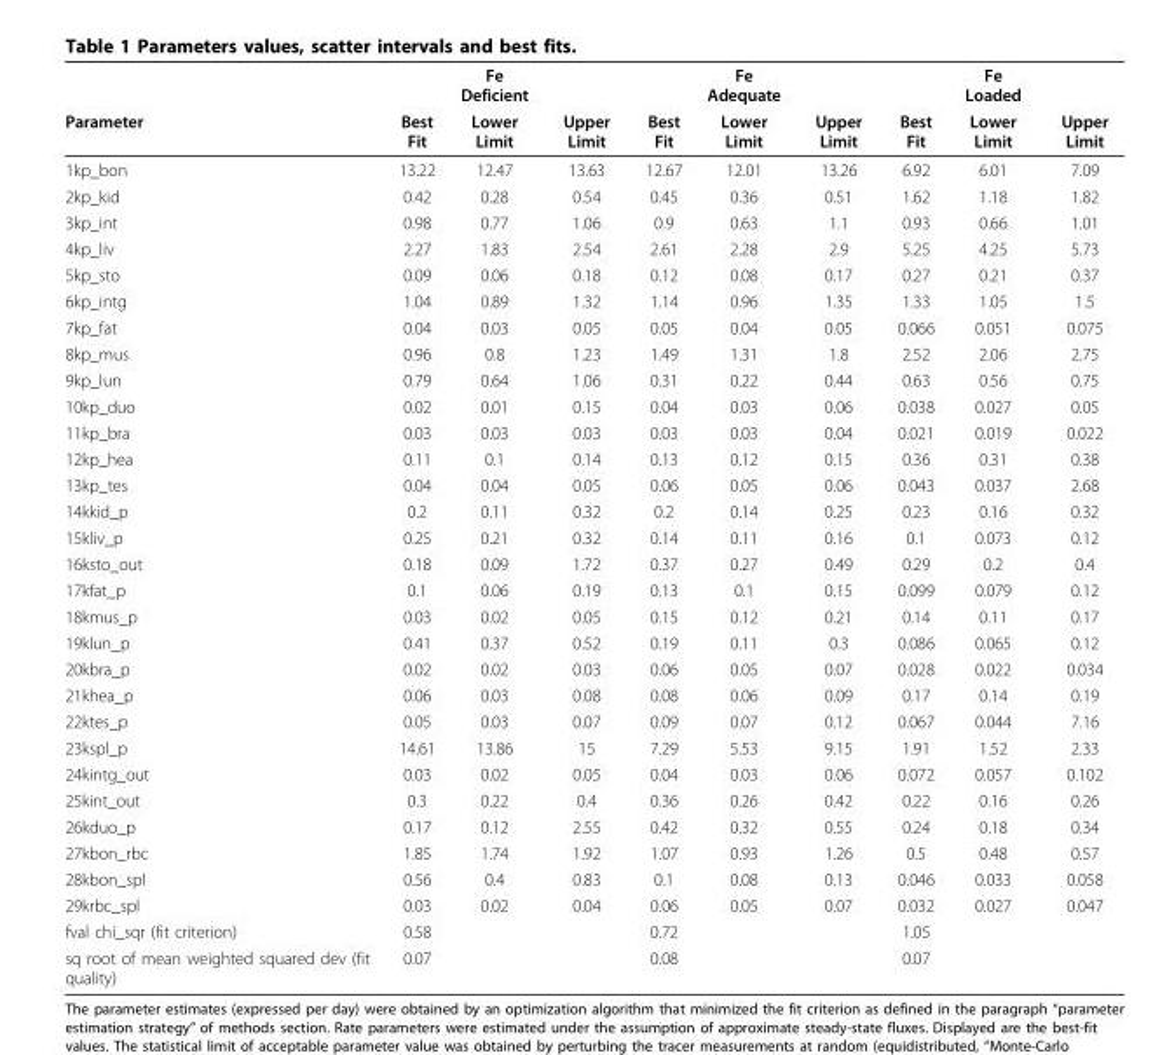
<table><thead><tr><td rowspan="2">Parameter</td><td rowspan="2">Best Fit</td><td rowspan="2">Fe Deficient Lower Limit</td><td rowspan="2">Upper Limit</td><td rowspan="2">Best Fit</td><td rowspan="2">Fe Adequate Lower Limit</td><td rowspan="2">Upper Limit</td><td rowspan="2">Best Fit</td><td rowspan="2">Fe Loaded Lower Limit</td><td rowspan="2">Upper Limit</td></tr><tr></tr></thead><tbody><tr><td>1kp_bon</td><td>13.22</td><td>12.47</td><td>13.63</td><td>12.67</td><td>12.01</td><td>13.26</td><td>6.92</td><td>6.01</td><td>7.09</td></tr><tr><td>2kp_kid</td><td>0.42</td><td>0.28</td><td>0.54</td><td>0.45</td><td>0.36</td><td>0.51</td><td>1.62</td><td>1.18</td><td>1.82</td></tr><tr><td>3kp_int</td><td>0.98</td><td>0.77</td><td>1.06</td><td>0.9</td><td>0.63</td><td>1.1</td><td>0.93</td><td>0.66</td><td>1.01</td></tr><tr><td>4kp_liv</td><td>2.27</td><td>1.83</td><td>2.54</td><td>2.61</td><td>2.28</td><td>2.9</td><td>5.25</td><td>4.25</td><td>5.73</td></tr><tr><td>5kp_sto</td><td>0.09</td><td>0.06</td><td>0.18</td><td>0.12</td><td>0.08</td><td>0.17</td><td>0.27</td><td>0.21</td><td>0.37</td></tr><tr><td>6kp_intg</td><td>1.04</td><td>0.89</td><td>1.32</td><td>1.14</td><td>0.96</td><td>1.35</td><td>1.33</td><td>1.05</td><td>1.5</td></tr><tr><td>7kp_fat</td><td>0.04</td><td>0.03</td><td>0.05</td><td>0.05</td><td>0.04</td><td>0.05</td><td>0.066</td><td>0.051</td><td>0.075</td></tr><tr><td>8kp_mus</td><td>0.96</td><td>0.8</td><td>1.23</td><td>1.49</td><td>1.31</td><td>1.8</td><td>2.52</td><td>2.06</td><td>2.75</td></tr><tr><td>9kp_lun</td><td>0.79</td><td>0.64</td><td>1.06</td><td>0.31</td><td>0.22</td><td>0.44</td><td>0.63</td><td>0.56</td><td>0.75</td></tr><tr><td>10kp_duo</td><td>0.02</td><td>0.01</td><td>0.15</td><td>0.04</td><td>0.03</td><td>0.06</td><td>0.038</td><td>0.027</td><td>0.05</td></tr><tr><td>11kp_bra</td><td>0.03</td><td>0.03</td><td>0.03</td><td>0.03</td><td>0.03</td><td>0.04</td><td>0.021</td><td>0.019</td><td>0.022</td></tr><tr><td>12kp_hea</td><td>0.11</td><td>0.1</td><td>0.14</td><td>0.13</td><td>0.12</td><td>0.15</td><td>0.36</td><td>0.31</td><td>0.38</td></tr><tr><td>13kp_tes</td><td>0.04</td><td>0.04</td><td>0.05</td><td>0.06</td><td>0.05</td><td>0.06</td><td>0.043</td><td>0.037</td><td>2.68</td></tr><tr><td>14kkid_p</td><td>0.2</td><td>0.11</td><td>0.32</td><td>0.2</td><td>0.14</td><td>0.25</td><td>0.23</td><td>0.16</td><td>0.32</td></tr><tr><td>15kliv_p</td><td>0.25</td><td>0.21</td><td>0.32</td><td>0.14</td><td>0.11</td><td>0.16</td><td>0.1</td><td>0.073</td><td>0.12</td></tr><tr><td>16ksto_out</td><td>0.18</td><td>0.09</td><td>1.72</td><td>0.37</td><td>0.27</td><td>0.49</td><td>0.29</td><td>0.2</td><td>0.4</td></tr><tr><td>17kfat_p</td><td>0.1</td><td>0.06</td><td>0.19</td><td>0.13</td><td>0.1</td><td>0.15</td><td>0.099</td><td>0.079</td><td>0.12</td></tr><tr><td>18kmus_p</td><td>0.03</td><td>0.02</td><td>0.05</td><td>0.15</td><td>0.12</td><td>0.21</td><td>0.14</td><td>0.11</td><td>0.17</td></tr><tr><td>19klun_p</td><td>0.41</td><td>0.37</td><td>0.52</td><td>0.19</td><td>0.11</td><td>0.3</td><td>0.086</td><td>0.065</td><td>0.12</td></tr><tr><td>20kbra_p</td><td>0.02</td><td>0.02</td><td>0.03</td><td>0.06</td><td>0.05</td><td>0.07</td><td>0.028</td><td>0.022</td><td>0.034</td></tr><tr><td>21khea_p</td><td>0.06</td><td>0.03</td><td>0.08</td><td>0.08</td><td>0.06</td><td>0.09</td><td>0.17</td><td>0.14</td><td>0.19</td></tr><tr><td>22ktes_p</td><td>0.05</td><td>0.03</td><td>0.07</td><td>0.09</td><td>0.07</td><td>0.12</td><td>0.067</td><td>0.044</td><td>7.16</td></tr><tr><td>23kspl_p</td><td>14.61</td><td>13.86</td><td>15</td><td>7.29</td><td>5.53</td><td>9.15</td><td>1.91</td><td>1.52</td><td>2.33</td></tr><tr><td>24kintg_out</td><td>0.03</td><td>0.02</td><td>0.05</td><td>0.04</td><td>0.03</td><td>0.06</td><td>0.072</td><td>0.057</td><td>0.102</td></tr><tr><td>25kint_out</td><td>0.3</td><td>0.22</td><td>0.4</td><td>0.36</td><td>0.26</td><td>0.42</td><td>0.22</td><td>0.16</td><td>0.26</td></tr><tr><td>26kduo_p</td><td>0.17</td><td>0.12</td><td>2.55</td><td>0.42</td><td>0.32</td><td>0.55</td><td>0.24</td><td>0.18</td><td>0.34</td></tr><tr><td>27kbon_rbc</td><td>1.85</td><td>1.74</td><td>1.92</td><td>1.07</td><td>0.93</td><td>1.26</td><td>0.5</td><td>0.48</td><td>0.57</td></tr><tr><td>28kbon_spl</td><td>0.56</td><td>0.4</td><td>0.83</td><td>0.1</td><td>0.08</td><td>0.13</td><td>0.046</td><td>0.033</td><td>0.058</td></tr><tr><td>29krbc_spl</td><td>0.03</td><td>0.02</td><td>0.04</td><td>0.06</td><td>0.05</td><td>0.07</td><td>0.032</td><td>0.027</td><td>0.047</td></tr><tr><td>fval chi_sqr (fit criterion)</td><td>0.58</td><td></td><td></td><td>0.72</td><td></td><td></td><td>1.05</td><td></td><td></td></tr><tr><td>sq root of mean weighted squared dev (fit quality)</td><td>0.07</td><td></td><td></td><td>0.08</td><td></td><td></td><td>0.07</td><td></td><td></td></tr></tbody></table>